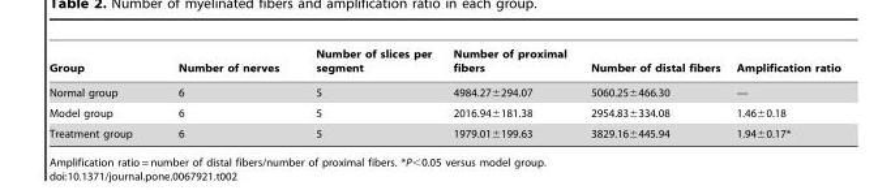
<table><thead><tr><td>Group</td><td>Number of nerves</td><td>Number of slices per segment</td><td>Number of proximal fibers</td><td>Number of distal fibers</td><td>Amplification ratio</td></tr></thead><tbody><tr><td>Normal group</td><td>6</td><td>5</td><td>4984.27±294.07</td><td>5060.25±466.30</td><td>––</td></tr><tr><td>Model group</td><td>6</td><td>5</td><td>2016.94±181.38</td><td>2954.83±334.08</td><td>1.46±0.18</td></tr><tr><td>Treatment group</td><td>6</td><td>5</td><td>1979.01±199.63</td><td>3829.16±445.94</td><td>1.94±0.17*</td></tr></tbody></table>